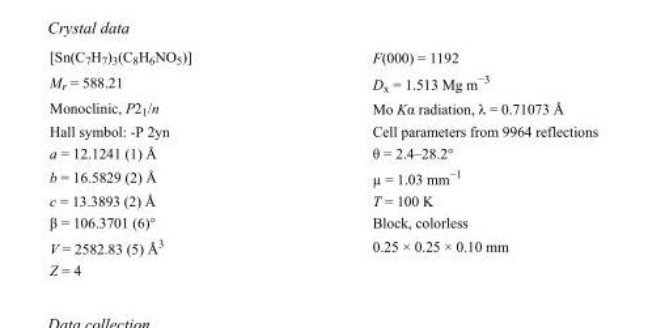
<table><tbody><tr><td>[Sn(C<sub>7</sub>H<sub>7</sub>)<sub>3</sub>(C<sub>8</sub>H<sub>6</sub>NO<sub>5</sub>)]</td><td>F(000) = 1192</td></tr><tr><td>M<sub>r</sub> = 588.21</td><td>D<sub>x</sub> = 1.513 Mg m<sup>−3</sup></td></tr><tr><td>Monoclinic, P2<sub>1</sub>/n</td><td>Mo Kα radiation, λ = 0.71073 Å</td></tr><tr><td>Hall symbol: -P 2yn</td><td>Cell parameters from 9964 reflections</td></tr><tr><td>a = 12.1241 (1) Å</td><td>θ = 2.4–28.2°</td></tr><tr><td>b = 16.5829 (2) Å</td><td>µ = 1.03 mm<sup>−1</sup></td></tr><tr><td>c = 13.3893 (2) Å</td><td>T = 100 K</td></tr><tr><td>β = 106.3701 (6)°</td><td>Block, colorless</td></tr><tr><td>V = 2582.83 (5) Å<sup>3</sup></td><td>0.25 × 0.25 × 0.10 mm</td></tr><tr><td>Z = 4</td><td></td></tr></tbody></table>